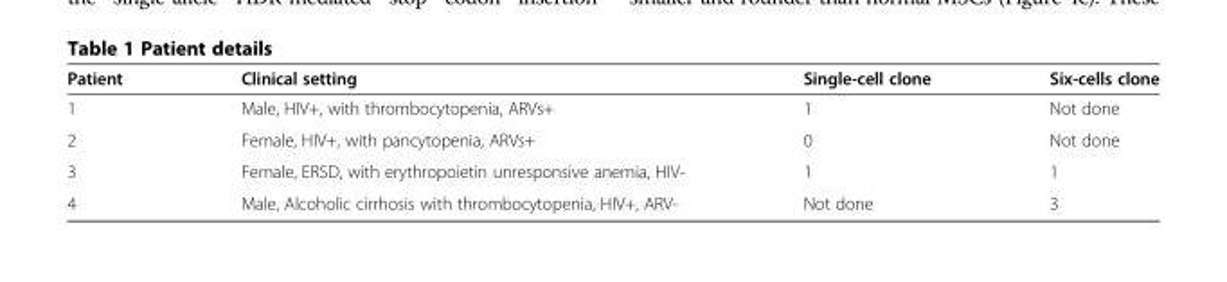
<table><thead><tr><td>Patient</td><td>Clinical setting</td><td>Single-cell clone</td><td>Six-cells clone</td></tr></thead><tbody><tr><td>1</td><td>Male, HIV+, with thrombocytopenia, ARVs+</td><td>1</td><td>Not done</td></tr><tr><td>2</td><td>Female, HIV+, with pancytopenia, ARVs+</td><td>0</td><td>Not done</td></tr><tr><td>3</td><td>Female, ERSD, with erythropoietin unresponsive anemia, HIV-</td><td>1</td><td>1</td></tr><tr><td>4</td><td>Male, Alcoholic cirrhosis with thrombocytopenia, HIV+, ARV-</td><td>Not done</td><td>3</td></tr></tbody></table>